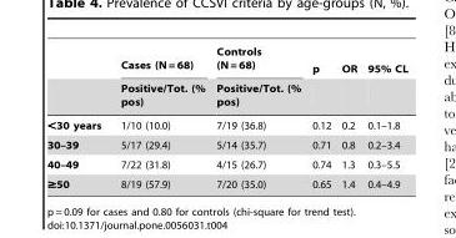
<table><thead><tr><td rowspan="2"></td><td rowspan="2">Cases (N = 68) Positive/Tot. (% pos)</td><td rowspan="2">Controls (N = 68) Positive/Tot. (% pos)</td><td rowspan="2">p</td><td rowspan="2">OR</td><td rowspan="2">95% CL</td></tr><tr></tr></thead><tbody><tr><td>&lt;30 years</td><td>1/10 (10.0)</td><td>7/19 (36.8)</td><td>0.12</td><td>0.2</td><td>0.1–1.8</td></tr><tr><td>30–39</td><td>5/17 (29.4)</td><td>5/14 (35.7)</td><td>0.71</td><td>0.8</td><td>0.2–3.4</td></tr><tr><td>40–49</td><td>7/22 (31.8)</td><td>4/15 (26.7)</td><td>0.74</td><td>1.3</td><td>0.3–5.5</td></tr><tr><td>≥50</td><td>8/19 (57.9)</td><td>7/20 (35.0)</td><td>0.65</td><td>1.4</td><td>0.4–4.9</td></tr></tbody></table>